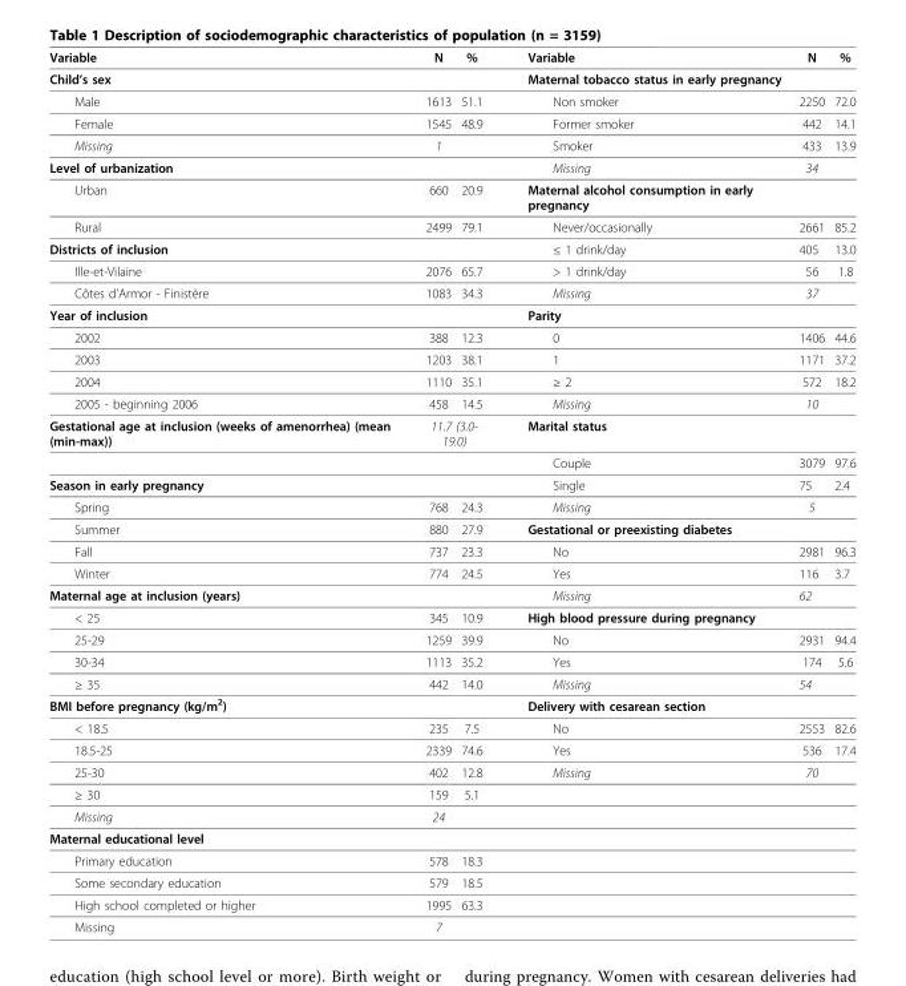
<table><thead><tr><td>Variable</td><td>N</td><td>%</td><td>Variable</td><td>N</td><td>%</td></tr></thead><tbody><tr><td>Child’s sex</td><td></td><td></td><td>Maternal tobacco status in early pregnancy</td><td></td><td></td></tr><tr><td>Male</td><td>1613</td><td>51.1</td><td>Non smoker</td><td>2250</td><td>72.0</td></tr><tr><td>Female</td><td>1545</td><td>48.9</td><td>Former smoker</td><td>442</td><td>14.1</td></tr><tr><td>Missing</td><td>1</td><td></td><td>Smoker</td><td>433</td><td>13.9</td></tr><tr><td>Level of urbanization</td><td></td><td></td><td>Missing</td><td>34</td><td></td></tr><tr><td>Urban</td><td>660</td><td>20.9</td><td>Maternal alcohol consumption in early pregnancy</td><td></td><td></td></tr><tr><td>Rural</td><td>2499</td><td>79.1</td><td>Never/occasionally</td><td>2661</td><td>85.2</td></tr><tr><td>Districts of inclusion</td><td></td><td></td><td>≤ 1 drink/day</td><td>405</td><td>13.0</td></tr><tr><td>Ille-et-Vilaine</td><td>2076</td><td>65.7</td><td>&gt; 1 drink/day</td><td>56</td><td>1.8</td></tr><tr><td>Côtes d’Armor - Finistère</td><td>1083</td><td>34.3</td><td>Missing</td><td>37</td><td></td></tr><tr><td>Year of inclusion</td><td></td><td></td><td>Parity</td><td></td><td></td></tr><tr><td>2002</td><td>388</td><td>12.3</td><td>0</td><td>1406</td><td>44.6</td></tr><tr><td>2003</td><td>1203</td><td>38.1</td><td>1</td><td>1171</td><td>37.2</td></tr><tr><td>2004</td><td>1110</td><td>35.1</td><td>≥ 2</td><td>572</td><td>18.2</td></tr><tr><td>2005 - beginning 2006</td><td>458</td><td>14.5</td><td>Missing</td><td>10</td><td></td></tr><tr><td rowspan="2">Gestational age at inclusion (weeks of amenorrhea) (mean (min-max))</td><td colspan="2">11.7 (3.0- 19.0)</td><td>Marital status</td><td></td><td></td></tr><tr><td></td><td></td><td>Couple</td><td>3079</td><td>97.6</td></tr><tr><td>Season in early pregnancy</td><td></td><td></td><td>Single</td><td>75</td><td>2.4</td></tr><tr><td>Spring</td><td>768</td><td>24.3</td><td>Missing</td><td>5</td><td></td></tr><tr><td>Summer</td><td>880</td><td>27.9</td><td>Gestational or preexisting diabetes</td><td></td><td></td></tr><tr><td>Fall</td><td>737</td><td>23.3</td><td>No</td><td>2981</td><td>96.3</td></tr><tr><td>Winter</td><td>774</td><td>24.5</td><td>Yes</td><td>116</td><td>3.7</td></tr><tr><td>Maternal age at inclusion (years)</td><td></td><td></td><td>Missing</td><td>62</td><td></td></tr><tr><td>&lt; 25</td><td>345</td><td>10.9</td><td>High blood pressure during pregnancy</td><td></td><td></td></tr><tr><td>25-29</td><td>1259</td><td>39.9</td><td>No</td><td>2931</td><td>94.4</td></tr><tr><td>30-34</td><td>1113</td><td>35.2</td><td>Yes</td><td>174</td><td>5.6</td></tr><tr><td>≥ 35</td><td>442</td><td>14.0</td><td>Missing</td><td>54</td><td></td></tr><tr><td>BMI before pregnancy (kg/m<sup>2</sup>)</td><td></td><td></td><td>Delivery with cesarean section</td><td></td><td></td></tr><tr><td>&lt; 18.5</td><td>235</td><td>7.5</td><td>No</td><td>2553</td><td>82.6</td></tr><tr><td>18.5-25</td><td>2339</td><td>74.6</td><td>Yes</td><td>536</td><td>17.4</td></tr><tr><td>25-30</td><td>402</td><td>12.8</td><td>Missing</td><td>70</td><td></td></tr><tr><td>≥ 30</td><td>159</td><td>5.1</td><td></td><td></td><td></td></tr><tr><td>Missing</td><td>24</td><td></td><td></td><td></td><td></td></tr><tr><td colspan="6">Maternal educational level</td></tr><tr><td>Primary education</td><td>578</td><td>18.3</td><td></td><td></td><td></td></tr><tr><td>Some secondary education</td><td>579</td><td>18.5</td><td></td><td></td><td></td></tr><tr><td>High school completed or higher</td><td>1995</td><td>63.3</td><td></td><td></td><td></td></tr><tr><td>Missing</td><td>7</td><td></td><td></td><td></td><td></td></tr></tbody></table>